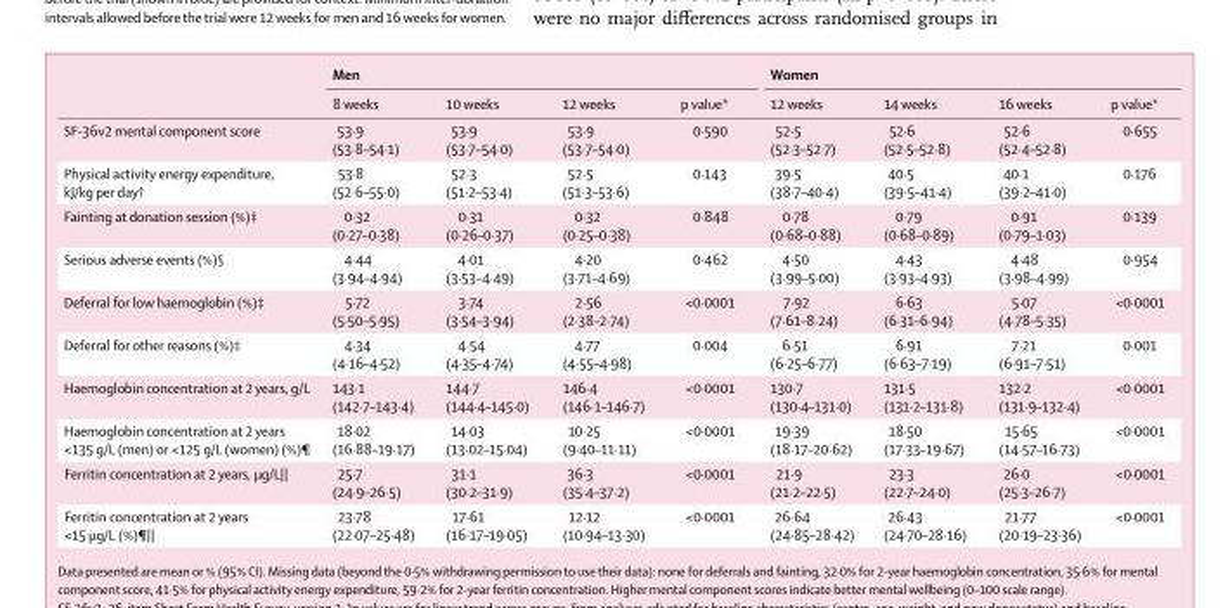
<table><thead><tr><td rowspan="2"></td><td colspan="4">Men</td><td colspan="4">Women</td></tr><tr><td>8 weeks</td><td>10 weeks</td><td>12 weeks</td><td>p value*</td><td>12 weeks</td><td>14 weeks</td><td>16 weeks</td><td>p value*</td></tr></thead><tbody><tr><td>SF-36v2 mental component score</td><td>53·9 (53·8–54·1)</td><td>53·9 (53·7–54·0)</td><td>53·9 (53·7–54·0)</td><td>0·590</td><td>52·5 (52·3–52·7)</td><td>52·6 (52·5–52·8)</td><td>52·6 (52·4–52·8)</td><td>0·655</td></tr><tr><td>Physical activity energy expenditure, kJ/kg per day†</td><td>53·8 (52·6–55·0)</td><td>52·3 (51·2–53·4)</td><td>52·5 (51·3–53·6)</td><td>0·143</td><td>39·5 (38·7–40·4)</td><td>40·5 (39·5–41·4)</td><td>40·1 (39·2–41·0)</td><td>0·176</td></tr><tr><td>Fainting at donation session (%)‡</td><td>0·32 (0·27–0·38)</td><td>0·31 (0·26–0·37)</td><td>0·32 (0·25–0·38)</td><td>0·848</td><td>0·78 (0·68–0·88)</td><td>0·79 (0·68–0·89)</td><td>0·91 (0·79–1·03)</td><td>0·139</td></tr><tr><td>Serious adverse events (%)§</td><td>4·44 (3·94–4·94)</td><td>4·01 (3·53–4·49)</td><td>4·20 (3·71–4·69)</td><td>0·462</td><td>4·50 (3·99–5·00)</td><td>4·43 (3·93–4·93)</td><td>4·48 (3·98–4·99)</td><td>0·954</td></tr><tr><td>Deferral for low haemoglobin (%)‡</td><td>5·72 (5·50–5·95)</td><td>3·74 (3·54–3·94)</td><td>2·56 (2·38–2·74)</td><td>&lt;0·0001</td><td>7·92 (7·61–8·24)</td><td>6·63 (6·31–6·94)</td><td>5·07 (4·78–5·35)</td><td>&lt;0·0001</td></tr><tr><td>Deferral for other reasons (%)‡</td><td>4·34 (4·16–4·52)</td><td>4·54 (4·35–4·74)</td><td>4·77 (4·55–4·98)</td><td>0·004</td><td>6·51 (6·25–6·77)</td><td>6·91 (6·63–7·19)</td><td>7·21 (6·91–7·51)</td><td>0·001</td></tr><tr><td>Haemoglobin concentration at 2 years, g/L</td><td>143·1 (142·7–143·4)</td><td>144·7 (144·4–145·0)</td><td>146·4 (146·1–146·7)</td><td>&lt;0·0001</td><td>130·7 (130·4–131·0)</td><td>131·5 (131·2–131·8)</td><td>132·2 (131·9–132·4)</td><td>&lt;0·0001</td></tr><tr><td>Haemoglobin concentration at 2 years &lt;135 g/L (men) or &lt;125 g/L (women) (%)¶</td><td>18·02 (16·88–19·17)</td><td>14·03 (13·02–15·04)</td><td>10·25 (9·40–11·11)</td><td>&lt;0·0001</td><td>19·39 (18·17–20·62)</td><td>18·50 (17·33–19·67)</td><td>15·65 (14·57–16·73)</td><td>&lt;0·0001</td></tr><tr><td>Ferritin concentration at 2 years, µg/L||</td><td>25·7 (24·9–26·5)</td><td>31·1 (30·2–31·9)</td><td>36·3 (35·4–37·2)</td><td>&lt;0·0001</td><td>21·9 (21·2–22·5)</td><td>23·3 (22·7–24·0)</td><td>26·0 (25·3–26·7)</td><td>&lt;0·0001</td></tr><tr><td>Ferritin concentration at 2 years &lt;15 µg/L (%)¶||</td><td>23·78 (22·07–25·48)</td><td>17·61 (16·17–19·05)</td><td>12·12 (10·94–13·30)</td><td>&lt;0·0001</td><td>26·64 (24·85–28·42)</td><td>26·43 (24·70–28·16)</td><td>21·77 (20·19–23·36)</td><td>&lt;0·0001</td></tr></tbody></table>